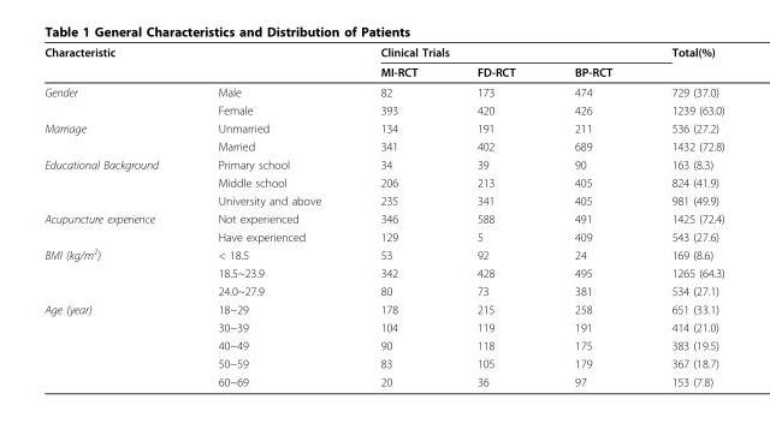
<table><thead><tr><td rowspan="2">Characteristic</td><td rowspan="2"></td><td colspan="3">Clinical Trials</td><td rowspan="2">Total(%)</td></tr><tr><td>MI-RCT</td><td>FD-RCT</td><td>BP-RCT</td></tr></thead><tbody><tr><td rowspan="2">Gender</td><td>Male</td><td>82</td><td>173</td><td>474</td><td>729 (37.0)</td></tr><tr><td>Female</td><td>393</td><td>420</td><td>426</td><td>1239 (63.0)</td></tr><tr><td rowspan="2">Marriage</td><td>Unmarried</td><td>134</td><td>191</td><td>211</td><td>536 (27.2)</td></tr><tr><td>Married</td><td>341</td><td>402</td><td>689</td><td>1432 (72.8)</td></tr><tr><td rowspan="3">Educational Background</td><td>Primary school</td><td>34</td><td>39</td><td>90</td><td>163 (8.3)</td></tr><tr><td>Middle school</td><td>206</td><td>213</td><td>405</td><td>824 (41.9)</td></tr><tr><td>University and above</td><td>235</td><td>341</td><td>405</td><td>981 (49.9)</td></tr><tr><td rowspan="2">Acupuncture experience</td><td>Not experienced</td><td>346</td><td>588</td><td>491</td><td>1425 (72.4)</td></tr><tr><td>Have experienced</td><td>129</td><td>5</td><td>409</td><td>543 (27.6)</td></tr><tr><td rowspan="3">BMI (kg/m<sup>2</sup>)</td><td>&lt; 18.5</td><td>53</td><td>92</td><td>24</td><td>169 (8.6)</td></tr><tr><td>18.5~23.9</td><td>342</td><td>428</td><td>495</td><td>1265 (64.3)</td></tr><tr><td>24.0~27.9</td><td>80</td><td>73</td><td>381</td><td>534 (27.1)</td></tr><tr><td rowspan="5">Age (year)</td><td>18~29</td><td>178</td><td>215</td><td>258</td><td>651 (33.1)</td></tr><tr><td>30~39</td><td>104</td><td>119</td><td>191</td><td>414 (21.0)</td></tr><tr><td>40~49</td><td>90</td><td>118</td><td>175</td><td>383 (19.5)</td></tr><tr><td>50~59</td><td>83</td><td>105</td><td>179</td><td>367 (18.7)</td></tr><tr><td>60~69</td><td>20</td><td>36</td><td>97</td><td>153 (7.8)</td></tr></tbody></table>